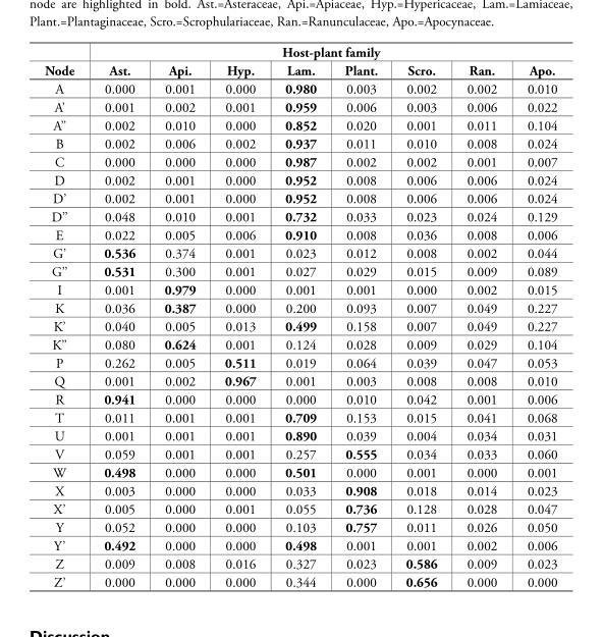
<table><thead><tr><td rowspan="2">Node</td><td colspan="8">Host-plant family</td></tr><tr><td>Ast.</td><td>Api.</td><td>Hyp.</td><td>Lam.</td><td>Plant.</td><td>Scro.</td><td>Ran.</td><td>Apo.</td></tr></thead><tbody><tr><td>A</td><td>0.000</td><td>0.001</td><td>0.000</td><td>0.980</td><td>0.003</td><td>0.002</td><td>0.002</td><td>0.010</td></tr><tr><td>A’</td><td>0.001</td><td>0.002</td><td>0.001</td><td>0.959</td><td>0.006</td><td>0.003</td><td>0.006</td><td>0.022</td></tr><tr><td>A’’</td><td>0.002</td><td>0.010</td><td>0.000</td><td>0.852</td><td>0.020</td><td>0.001</td><td>0.011</td><td>0.104</td></tr><tr><td>B</td><td>0.002</td><td>0.006</td><td>0.002</td><td>0.937</td><td>0.011</td><td>0.010</td><td>0.008</td><td>0.024</td></tr><tr><td>C</td><td>0.000</td><td>0.000</td><td>0.000</td><td>0.987</td><td>0.002</td><td>0.002</td><td>0.001</td><td>0.007</td></tr><tr><td>D</td><td>0.002</td><td>0.001</td><td>0.000</td><td>0.952</td><td>0.008</td><td>0.006</td><td>0.006</td><td>0.024</td></tr><tr><td>D’</td><td>0.002</td><td>0.001</td><td>0.000</td><td>0.952</td><td>0.008</td><td>0.006</td><td>0.006</td><td>0.024</td></tr><tr><td>D’’</td><td>0.048</td><td>0.010</td><td>0.001</td><td>0.732</td><td>0.033</td><td>0.023</td><td>0.024</td><td>0.129</td></tr><tr><td>E</td><td>0.022</td><td>0.005</td><td>0.006</td><td>0.910</td><td>0.008</td><td>0.036</td><td>0.008</td><td>0.006</td></tr><tr><td>G’</td><td>0.536</td><td>0.374</td><td>0.001</td><td>0.023</td><td>0.012</td><td>0.008</td><td>0.002</td><td>0.044</td></tr><tr><td>G’’</td><td>0.531</td><td>0.300</td><td>0.001</td><td>0.027</td><td>0.029</td><td>0.015</td><td>0.009</td><td>0.089</td></tr><tr><td>I</td><td>0.001</td><td>0.979</td><td>0.000</td><td>0.001</td><td>0.001</td><td>0.000</td><td>0.002</td><td>0.015</td></tr><tr><td>K</td><td>0.036</td><td>0.387</td><td>0.000</td><td>0.200</td><td>0.093</td><td>0.007</td><td>0.049</td><td>0.227</td></tr><tr><td>K’</td><td>0.040</td><td>0.005</td><td>0.013</td><td>0.499</td><td>0.158</td><td>0.007</td><td>0.049</td><td>0.227</td></tr><tr><td>K’’</td><td>0.080</td><td>0.624</td><td>0.001</td><td>0.124</td><td>0.028</td><td>0.009</td><td>0.029</td><td>0.104</td></tr><tr><td>P</td><td>0.262</td><td>0.005</td><td>0.511</td><td>0.019</td><td>0.064</td><td>0.039</td><td>0.047</td><td>0.053</td></tr><tr><td>Q</td><td>0.001</td><td>0.002</td><td>0.967</td><td>0.001</td><td>0.003</td><td>0.008</td><td>0.008</td><td>0.010</td></tr><tr><td>R</td><td>0.941</td><td>0.000</td><td>0.000</td><td>0.000</td><td>0.010</td><td>0.042</td><td>0.001</td><td>0.006</td></tr><tr><td>T</td><td>0.011</td><td>0.001</td><td>0.001</td><td>0.709</td><td>0.153</td><td>0.015</td><td>0.041</td><td>0.068</td></tr><tr><td>U</td><td>0.001</td><td>0.001</td><td>0.001</td><td>0.890</td><td>0.039</td><td>0.004</td><td>0.034</td><td>0.031</td></tr><tr><td>V</td><td>0.059</td><td>0.001</td><td>0.001</td><td>0.257</td><td>0.555</td><td>0.034</td><td>0.033</td><td>0.060</td></tr><tr><td>W</td><td>0.498</td><td>0.000</td><td>0.000</td><td>0.501</td><td>0.000</td><td>0.001</td><td>0.000</td><td>0.001</td></tr><tr><td>X</td><td>0.003</td><td>0.000</td><td>0.000</td><td>0.033</td><td>0.908</td><td>0.018</td><td>0.014</td><td>0.023</td></tr><tr><td>X’</td><td>0.005</td><td>0.000</td><td>0.001</td><td>0.055</td><td>0.736</td><td>0.128</td><td>0.028</td><td>0.047</td></tr><tr><td>Y</td><td>0.052</td><td>0.000</td><td>0.000</td><td>0.103</td><td>0.757</td><td>0.011</td><td>0.026</td><td>0.050</td></tr><tr><td>Y’</td><td>0.492</td><td>0.000</td><td>0.000</td><td>0.498</td><td>0.001</td><td>0.001</td><td>0.002</td><td>0.006</td></tr><tr><td>Z</td><td>0.009</td><td>0.008</td><td>0.016</td><td>0.327</td><td>0.023</td><td>0.586</td><td>0.009</td><td>0.023</td></tr><tr><td>Z’</td><td>0.000</td><td>0.000</td><td>0.000</td><td>0.344</td><td>0.000</td><td>0.656</td><td>0.000</td><td>0.000</td></tr></tbody></table>